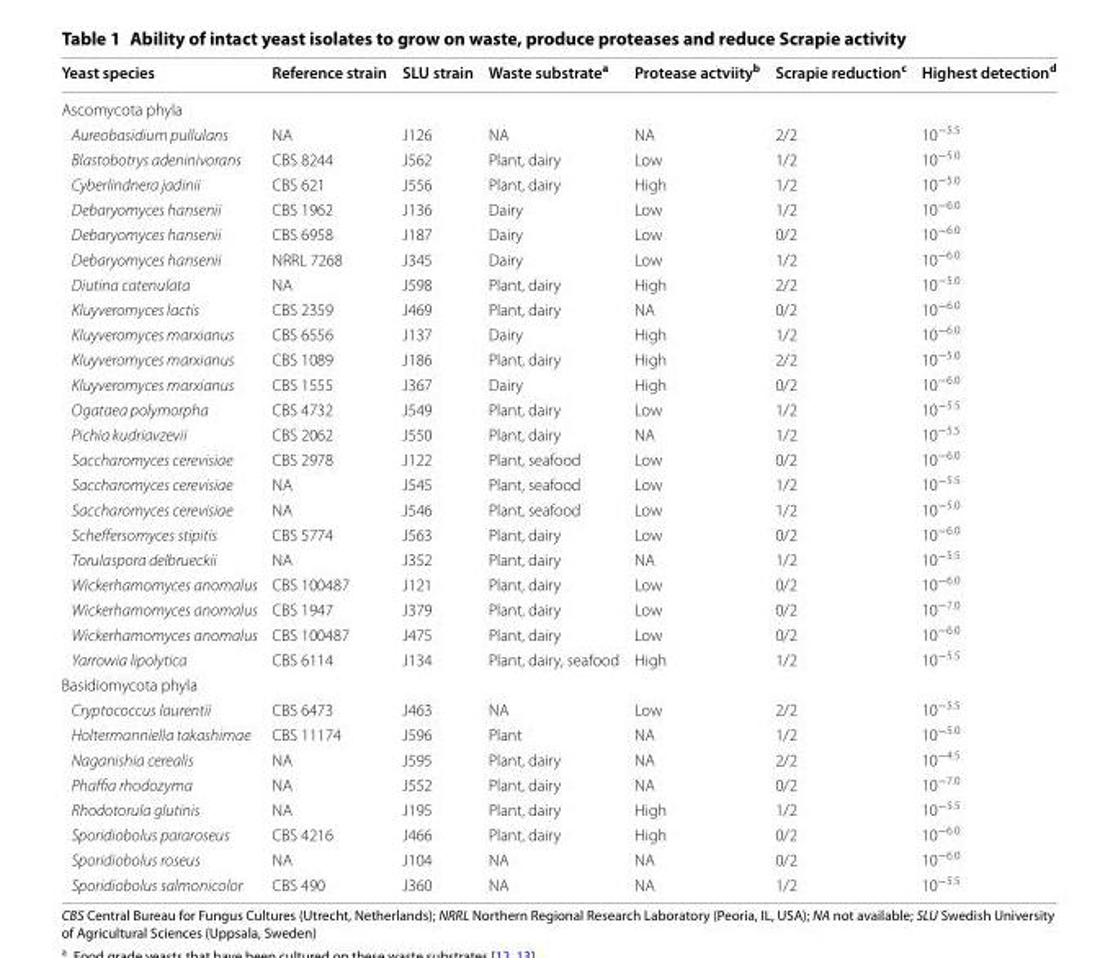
<table><thead><tr><td>Yeast species</td><td>Reference strain</td><td>SLU strain</td><td>Waste substrate<sup>a</sup></td><td>Protease actviity<sup>b</sup></td><td>Scrapie reduction<sup>c</sup></td><td>Highest detection<sup>d</sup></td></tr></thead><tbody><tr><td colspan="7">Ascomycota phyla</td></tr><tr><td>Aureobasidium pullulans</td><td>NA</td><td>J126</td><td>NA</td><td>NA</td><td>2/2</td><td>10<sup>−5.5</sup></td></tr><tr><td>Blastobotrys adeninivorans</td><td>CBS 8244</td><td>J562</td><td>Plant, dairy</td><td>Low</td><td>1/2</td><td>10<sup>−5.0</sup></td></tr><tr><td>Cyberlindnera jadinii</td><td>CBS 621</td><td>J556</td><td>Plant, dairy</td><td>High</td><td>1/2</td><td>10<sup>−5.0</sup></td></tr><tr><td>Debaryomyces hansenii</td><td>CBS 1962</td><td>J136</td><td>Dairy</td><td>Low</td><td>1/2</td><td>10<sup>−6.0</sup></td></tr><tr><td>Debaryomyces hansenii</td><td>CBS 6958</td><td>J187</td><td>Dairy</td><td>Low</td><td>0/2</td><td>10<sup>−6.0</sup></td></tr><tr><td>Debaryomyces hansenii</td><td>NRRL 7268</td><td>J345</td><td>Dairy</td><td>Low</td><td>1/2</td><td>10<sup>−6.0</sup></td></tr><tr><td>Diutina catenulata</td><td>NA</td><td>J598</td><td>Plant, dairy</td><td>High</td><td>2/2</td><td>10<sup>−5.0</sup></td></tr><tr><td>Kluyveromyces lactis</td><td>CBS 2359</td><td>J469</td><td>Plant, dairy</td><td>NA</td><td>0/2</td><td>10<sup>−6.0</sup></td></tr><tr><td>Kluyveromyces marxianus</td><td>CBS 6556</td><td>J137</td><td>Dairy</td><td>High</td><td>1/2</td><td>10<sup>−6.0</sup></td></tr><tr><td>Kluyveromyces marxianus</td><td>CBS 1089</td><td>J186</td><td>Plant, dairy</td><td>High</td><td>2/2</td><td>10<sup>−5.0</sup></td></tr><tr><td>Kluyveromyces marxianus</td><td>CBS 1555</td><td>J367</td><td>Dairy</td><td>High</td><td>0/2</td><td>10<sup>−6.0</sup></td></tr><tr><td>Ogataea polymorpha</td><td>CBS 4732</td><td>J549</td><td>Plant, dairy</td><td>Low</td><td>1/2</td><td>10<sup>−5.5</sup></td></tr><tr><td>Pichia kudriavzevii</td><td>CBS 2062</td><td>J550</td><td>Plant, dairy</td><td>NA</td><td>1/2</td><td>10<sup>−5.5</sup></td></tr><tr><td>Saccharomyces cerevisiae</td><td>CBS 2978</td><td>J122</td><td>Plant, seafood</td><td>Low</td><td>0/2</td><td>10<sup>−6.0</sup></td></tr><tr><td>Saccharomyces cerevisiae</td><td>NA</td><td>J545</td><td>Plant, seafood</td><td>Low</td><td>1/2</td><td>10<sup>−5.5</sup></td></tr><tr><td>Saccharomyces cerevisiae</td><td>NA</td><td>J546</td><td>Plant, seafood</td><td>Low</td><td>1/2</td><td>10<sup>−5.0</sup></td></tr><tr><td>Scheffersomyces stipitis</td><td>CBS 5774</td><td>J563</td><td>Plant, dairy</td><td>Low</td><td>0/2</td><td>10<sup>−6.0</sup></td></tr><tr><td>Torulaspora delbrueckii</td><td>NA</td><td>J352</td><td>Plant, dairy</td><td>NA</td><td>1/2</td><td>10<sup>−5.5</sup></td></tr><tr><td>Wickerhamomyces anomalus</td><td>CBS 100487</td><td>J121</td><td>Plant, dairy</td><td>Low</td><td>0/2</td><td>10<sup>−6.0</sup></td></tr><tr><td>Wickerhamomyces anomalus</td><td>CBS 1947</td><td>J379</td><td>Plant, dairy</td><td>Low</td><td>0/2</td><td>10<sup>−7.0</sup></td></tr><tr><td>Wickerhamomyces anomalus</td><td>CBS 100487</td><td>J475</td><td>Plant, dairy</td><td>Low</td><td>0/2</td><td>10<sup>−6.0</sup></td></tr><tr><td>Yarrowia lipolytica</td><td>CBS 6114</td><td>J134</td><td>Plant, dairy, seafood</td><td>High</td><td>1/2</td><td>10<sup>−5.5</sup></td></tr><tr><td colspan="7">Basidiomycota phyla</td></tr><tr><td>Cryptococcus laurentii</td><td>CBS 6473</td><td>J463</td><td>NA</td><td>Low</td><td>2/2</td><td>10<sup>−5.5</sup></td></tr><tr><td>Holtermanniella takashimae</td><td>CBS 11174</td><td>J596</td><td>Plant</td><td>NA</td><td>1/2</td><td>10<sup>−5.0</sup></td></tr><tr><td>Naganishia cerealis</td><td>NA</td><td>J595</td><td>Plant, dairy</td><td>NA</td><td>2/2</td><td>10<sup>−4.5</sup></td></tr><tr><td>Phaffia rhodozyma</td><td>NA</td><td>J552</td><td>Plant, dairy</td><td>NA</td><td>0/2</td><td>10<sup>−7.0</sup></td></tr><tr><td>Rhodotorula glutinis</td><td>NA</td><td>J195</td><td>Plant, dairy</td><td>High</td><td>1/2</td><td>10<sup>−5.5</sup></td></tr><tr><td>Sporidiobolus pararoseus</td><td>CBS 4216</td><td>J466</td><td>Plant, dairy</td><td>High</td><td>0/2</td><td>10<sup>−6.0</sup></td></tr><tr><td>Sporidiobolus roseus</td><td>NA</td><td>J104</td><td>NA</td><td>NA</td><td>0/2</td><td>10<sup>−6.0</sup></td></tr><tr><td>Sporidiobolus salmonicolor</td><td>CBS 490</td><td>J360</td><td>NA</td><td>NA</td><td>1/2</td><td>10<sup>−5.5</sup></td></tr></tbody></table>